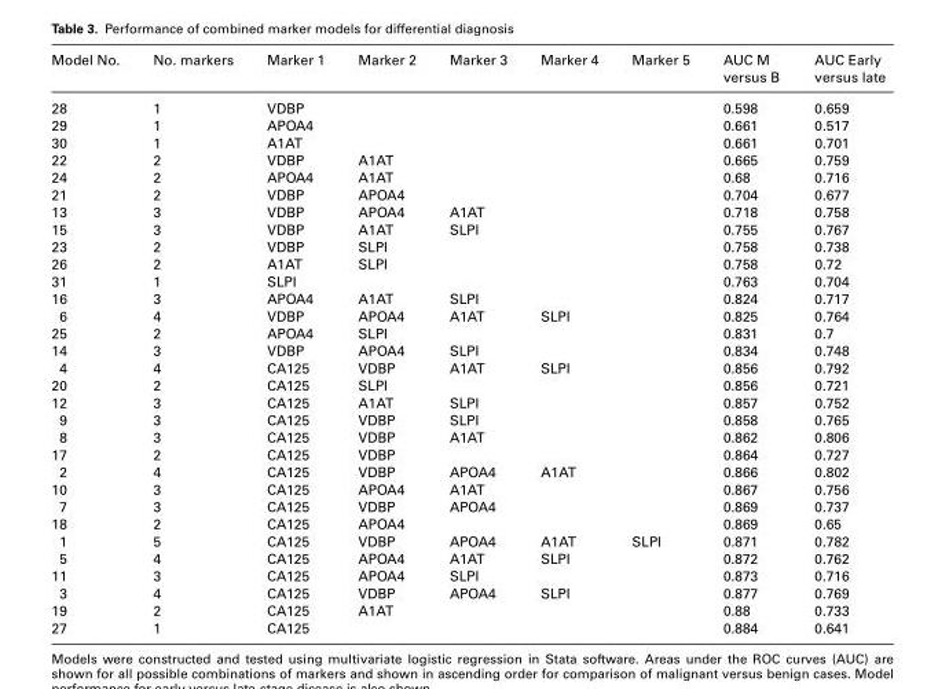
<table><thead><tr><td>Model No.</td><td>No. markers</td><td>Marker 1</td><td>Marker 2</td><td>Marker 3</td><td>Marker 4</td><td>Marker 5</td><td>AUC M versus B</td><td>AUC Early versus late</td></tr></thead><tbody><tr><td>28</td><td>1</td><td>VDBP</td><td></td><td></td><td></td><td></td><td>0.598</td><td>0.659</td></tr><tr><td>29</td><td>1</td><td>APOA4</td><td></td><td></td><td></td><td></td><td>0.661</td><td>0.517</td></tr><tr><td>30</td><td>1</td><td>A1AT</td><td></td><td></td><td></td><td></td><td>0.661</td><td>0.701</td></tr><tr><td>22</td><td>2</td><td>VDBP</td><td>A1AT</td><td></td><td></td><td></td><td>0.665</td><td>0.759</td></tr><tr><td>24</td><td>2</td><td>APOA4</td><td>A1AT</td><td></td><td></td><td></td><td>0.68</td><td>0.716</td></tr><tr><td>21</td><td>2</td><td>VDBP</td><td>APOA4</td><td></td><td></td><td></td><td>0.704</td><td>0.677</td></tr><tr><td>13</td><td>3</td><td>VDBP</td><td>APOA4</td><td>A1AT</td><td></td><td></td><td>0.718</td><td>0.758</td></tr><tr><td>15</td><td>3</td><td>VDBP</td><td>A1AT</td><td>SLPI</td><td></td><td></td><td>0.755</td><td>0.767</td></tr><tr><td>23</td><td>2</td><td>VDBP</td><td>SLPI</td><td></td><td></td><td></td><td>0.758</td><td>0.738</td></tr><tr><td>26</td><td>2</td><td>A1AT</td><td>SLPI</td><td></td><td></td><td></td><td>0.758</td><td>0.72</td></tr><tr><td>31</td><td>1</td><td>SLPI</td><td></td><td></td><td></td><td></td><td>0.763</td><td>0.704</td></tr><tr><td>16</td><td>3</td><td>APOA4</td><td>A1AT</td><td>SLPI</td><td></td><td></td><td>0.824</td><td>0.717</td></tr><tr><td>6</td><td>4</td><td>VDBP</td><td>APOA4</td><td>A1AT</td><td>SLPI</td><td></td><td>0.825</td><td>0.764</td></tr><tr><td>25</td><td>2</td><td>APOA4</td><td>SLPI</td><td></td><td></td><td></td><td>0.831</td><td>0.7</td></tr><tr><td>14</td><td>3</td><td>VDBP</td><td>APOA4</td><td>SLPI</td><td></td><td></td><td>0.834</td><td>0.748</td></tr><tr><td>4</td><td>4</td><td>CA125</td><td>VDBP</td><td>A1AT</td><td>SLPI</td><td></td><td>0.856</td><td>0.792</td></tr><tr><td>20</td><td>2</td><td>CA125</td><td>SLPI</td><td></td><td></td><td></td><td>0.856</td><td>0.721</td></tr><tr><td>12</td><td>3</td><td>CA125</td><td>A1AT</td><td>SLPI</td><td></td><td></td><td>0.857</td><td>0.752</td></tr><tr><td>9</td><td>3</td><td>CA125</td><td>VDBP</td><td>SLPI</td><td></td><td></td><td>0.858</td><td>0.765</td></tr><tr><td>8</td><td>3</td><td>CA125</td><td>VDBP</td><td>A1AT</td><td></td><td></td><td>0.862</td><td>0.806</td></tr><tr><td>17</td><td>2</td><td>CA125</td><td>VDBP</td><td></td><td></td><td></td><td>0.864</td><td>0.727</td></tr><tr><td>2</td><td>4</td><td>CA125</td><td>VDBP</td><td>APOA4</td><td>A1AT</td><td></td><td>0.866</td><td>0.802</td></tr><tr><td>10</td><td>3</td><td>CA125</td><td>APOA4</td><td>A1AT</td><td></td><td></td><td>0.867</td><td>0.756</td></tr><tr><td>7</td><td>3</td><td>CA125</td><td>VDBP</td><td>APOA4</td><td></td><td></td><td>0.869</td><td>0.737</td></tr><tr><td>18</td><td>2</td><td>CA125</td><td>APOA4</td><td></td><td></td><td></td><td>0.869</td><td>0.65</td></tr><tr><td>1</td><td>5</td><td>CA125</td><td>VDBP</td><td>APOA4</td><td>A1AT</td><td>SLPI</td><td>0.871</td><td>0.782</td></tr><tr><td>5</td><td>4</td><td>CA125</td><td>APOA4</td><td>A1AT</td><td>SLPI</td><td></td><td>0.872</td><td>0.762</td></tr><tr><td>11</td><td>3</td><td>CA125</td><td>APOA4</td><td>SLPI</td><td></td><td></td><td>0.873</td><td>0.716</td></tr><tr><td>3</td><td>4</td><td>CA125</td><td>VDBP</td><td>APOA4</td><td>SLPI</td><td></td><td>0.877</td><td>0.769</td></tr><tr><td>19</td><td>2</td><td>CA125</td><td>A1AT</td><td></td><td></td><td></td><td>0.88</td><td>0.733</td></tr><tr><td>27</td><td>1</td><td>CA125</td><td></td><td></td><td></td><td></td><td>0.884</td><td>0.641</td></tr></tbody></table>